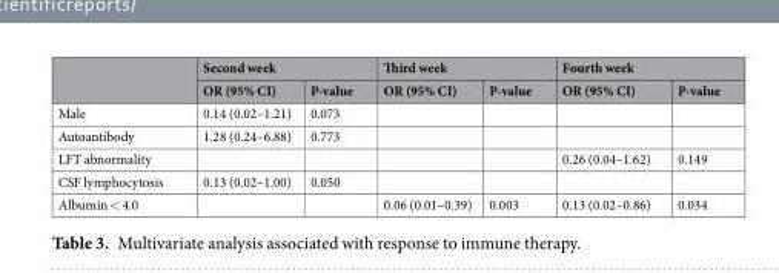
<table><thead><tr><td rowspan="2"></td><td colspan="2">Second week</td><td colspan="2">Third week</td><td colspan="2">Fourth week</td></tr><tr><td>OR (95% CI)</td><td>P-value</td><td>OR (95% CI)</td><td>P-value</td><td>OR (95% CI)</td><td>P-value</td></tr></thead><tbody><tr><td>Male</td><td>0.14 (0.02–1.21)</td><td>0.073</td><td></td><td></td><td></td><td></td></tr><tr><td>Autoantibody</td><td>1.28 (0.24–6.88)</td><td>0.773</td><td></td><td></td><td></td><td></td></tr><tr><td>LFT abnormality</td><td></td><td></td><td></td><td></td><td>0.26 (0.04–1.62)</td><td>0.149</td></tr><tr><td>CSF lymphocytosis</td><td>0.13 (0.02–1.00)</td><td>0.050</td><td></td><td></td><td></td><td></td></tr><tr><td>Albumin &lt; 4.0</td><td></td><td></td><td>0.06 (0.01–0.39)</td><td>0.003</td><td>0.13 (0.02–0.86)</td><td>0.034</td></tr></tbody></table>